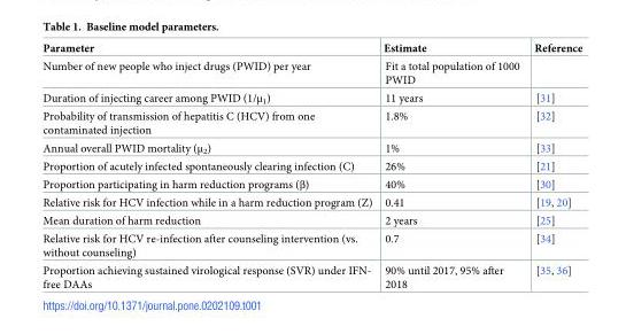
<table><thead><tr><td>Parameter</td><td>Estimate</td><td>Reference</td></tr></thead><tbody><tr><td>Number of new people who inject drugs (PWID) per year</td><td>Fit a total population of 1000 PWID</td><td></td></tr><tr><td>Duration of injecting career among PWID (1/μ<sub>1</sub>)</td><td>11 years</td><td>[31]</td></tr><tr><td>Probability of transmission of hepatitis C (HCV) from one contaminated injection</td><td>1.8%</td><td>[32]</td></tr><tr><td>Annual overall PWID mortality (μ<sub>2</sub>)</td><td>1%</td><td>[33]</td></tr><tr><td>Proportion of acutely infected spontaneously clearing infection (C)</td><td>26%</td><td>[21]</td></tr><tr><td>Proportion participating in harm reduction programs (β)</td><td>40%</td><td>[30]</td></tr><tr><td>Relative risk for HCV infection while in a harm reduction program (Z)</td><td>0.41</td><td>[19, 20]</td></tr><tr><td>Mean duration of harm reduction</td><td>2 years</td><td>[25]</td></tr><tr><td>Relative risk for HCV re-infection after counseling intervention (vs. without counseling)</td><td>0.7</td><td>[34]</td></tr><tr><td>Proportion achieving sustained virological response (SVR) under IFN- free DAAs</td><td>90% until 2017, 95% after 2018</td><td>[35, 36]</td></tr></tbody></table>